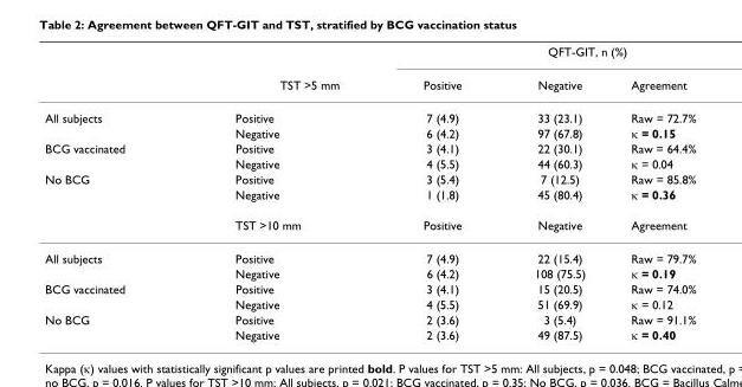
<table><thead><tr><td rowspan="2"></td><td rowspan="2">TST &gt;5 mm</td><td colspan="3">QFT-GIT, n (%)</td></tr><tr><td>Positive</td><td>Negative</td><td>Agreement</td></tr></thead><tbody><tr><td rowspan="2">All subjects</td><td>Positive</td><td>7 (4.9)</td><td>33 (23.1)</td><td>Raw = 72.7%</td></tr><tr><td>Negative</td><td>6 (4.2)</td><td>97 (67.8)</td><td>κ = 0.15</td></tr><tr><td rowspan="2">BCG vaccinated</td><td>Positive</td><td>3 (4.1)</td><td>22 (30.1)</td><td>Raw = 64.4%</td></tr><tr><td>Negative</td><td>4 (5.5)</td><td>44 (60.3)</td><td>κ = 0.04</td></tr><tr><td rowspan="3">No BCG</td><td>Positive</td><td>3 (5.4)</td><td>7 (12.5)</td><td>Raw = 85.8%</td></tr><tr><td>Negative</td><td>1 (1.8)</td><td>45 (80.4)</td><td>κ = 0.36</td></tr><tr><td>TST &gt;10 mm</td><td>Positive</td><td>Negative</td><td>Agreement</td></tr><tr><td rowspan="2">All subjects</td><td>Positive</td><td>7 (4.9)</td><td>22 (15.4)</td><td>Raw = 79.7%</td></tr><tr><td>Negative</td><td>6 (4.2)</td><td>108 (75.5)</td><td>κ = 0.19</td></tr><tr><td rowspan="2">BCG vaccinated</td><td>Positive</td><td>3 (4.1)</td><td>15 (20.5)</td><td>Raw = 74.0%</td></tr><tr><td>Negative</td><td>4 (5.5)</td><td>51 (69.9)</td><td>κ = 0.12</td></tr><tr><td rowspan="2">No BCG</td><td>Positive</td><td>2 (3.6)</td><td>3 (5.4)</td><td>Raw = 91.1%</td></tr><tr><td>Negative</td><td>2 (3.6)</td><td>49 (87.5)</td><td>κ = 0.40</td></tr></tbody></table>